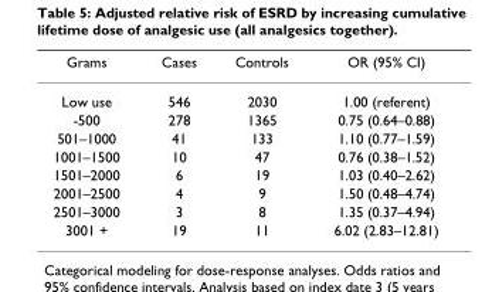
<table><thead><tr><td>Grams</td><td>Cases</td><td>Controls</td><td>OR (95% CI)</td></tr></thead><tbody><tr><td>Low use</td><td>546</td><td>2030</td><td>1.00 (referent)</td></tr><tr><td>-500</td><td>278</td><td>1365</td><td>0.75 (0.64–0.88)</td></tr><tr><td>501–1000</td><td>41</td><td>133</td><td>1.10 (0.77–1.59)</td></tr><tr><td>1001–1500</td><td>10</td><td>47</td><td>0.76 (0.38–1.52)</td></tr><tr><td>1501–2000</td><td>6</td><td>19</td><td>1.03 (0.40–2.62)</td></tr><tr><td>2001–2500</td><td>4</td><td>9</td><td>1.50 (0.48–4.74)</td></tr><tr><td>2501–3000</td><td>3</td><td>8</td><td>1.35 (0.37–4.94)</td></tr><tr><td>3001 +</td><td>19</td><td>11</td><td>6.02 (2.83–12.81)</td></tr></tbody></table>